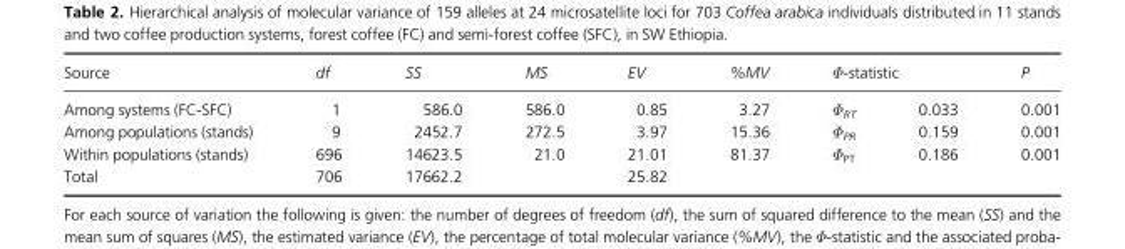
<table><thead><tr><td rowspan="2">Source Among systems (FC-SFC)</td><td rowspan="2">df 1</td><td rowspan="2">SS 586.0</td><td rowspan="2">MS 586.0</td><td rowspan="2">EV 0.85</td><td rowspan="2">%MV 3.27</td><td colspan="2">Φ-statistic</td><td rowspan="2">P 0.001</td></tr><tr><td>Φ<sub>RT</sub></td><td>0.033</td></tr></thead><tbody><tr><td>Among populations (stands)</td><td>9</td><td>2452.7</td><td>272.5</td><td>3.97</td><td>15.36</td><td>Φ<sub>PR</sub></td><td>0.159</td><td>0.001</td></tr><tr><td>Within populations (stands)</td><td>696</td><td>14623.5</td><td>21.0</td><td>21.01</td><td>81.37</td><td>Φ<sub>PT</sub></td><td>0.186</td><td>0.001</td></tr><tr><td>Total</td><td>706</td><td>17662.2</td><td></td><td>25.82</td><td></td><td></td><td></td><td></td></tr></tbody></table>